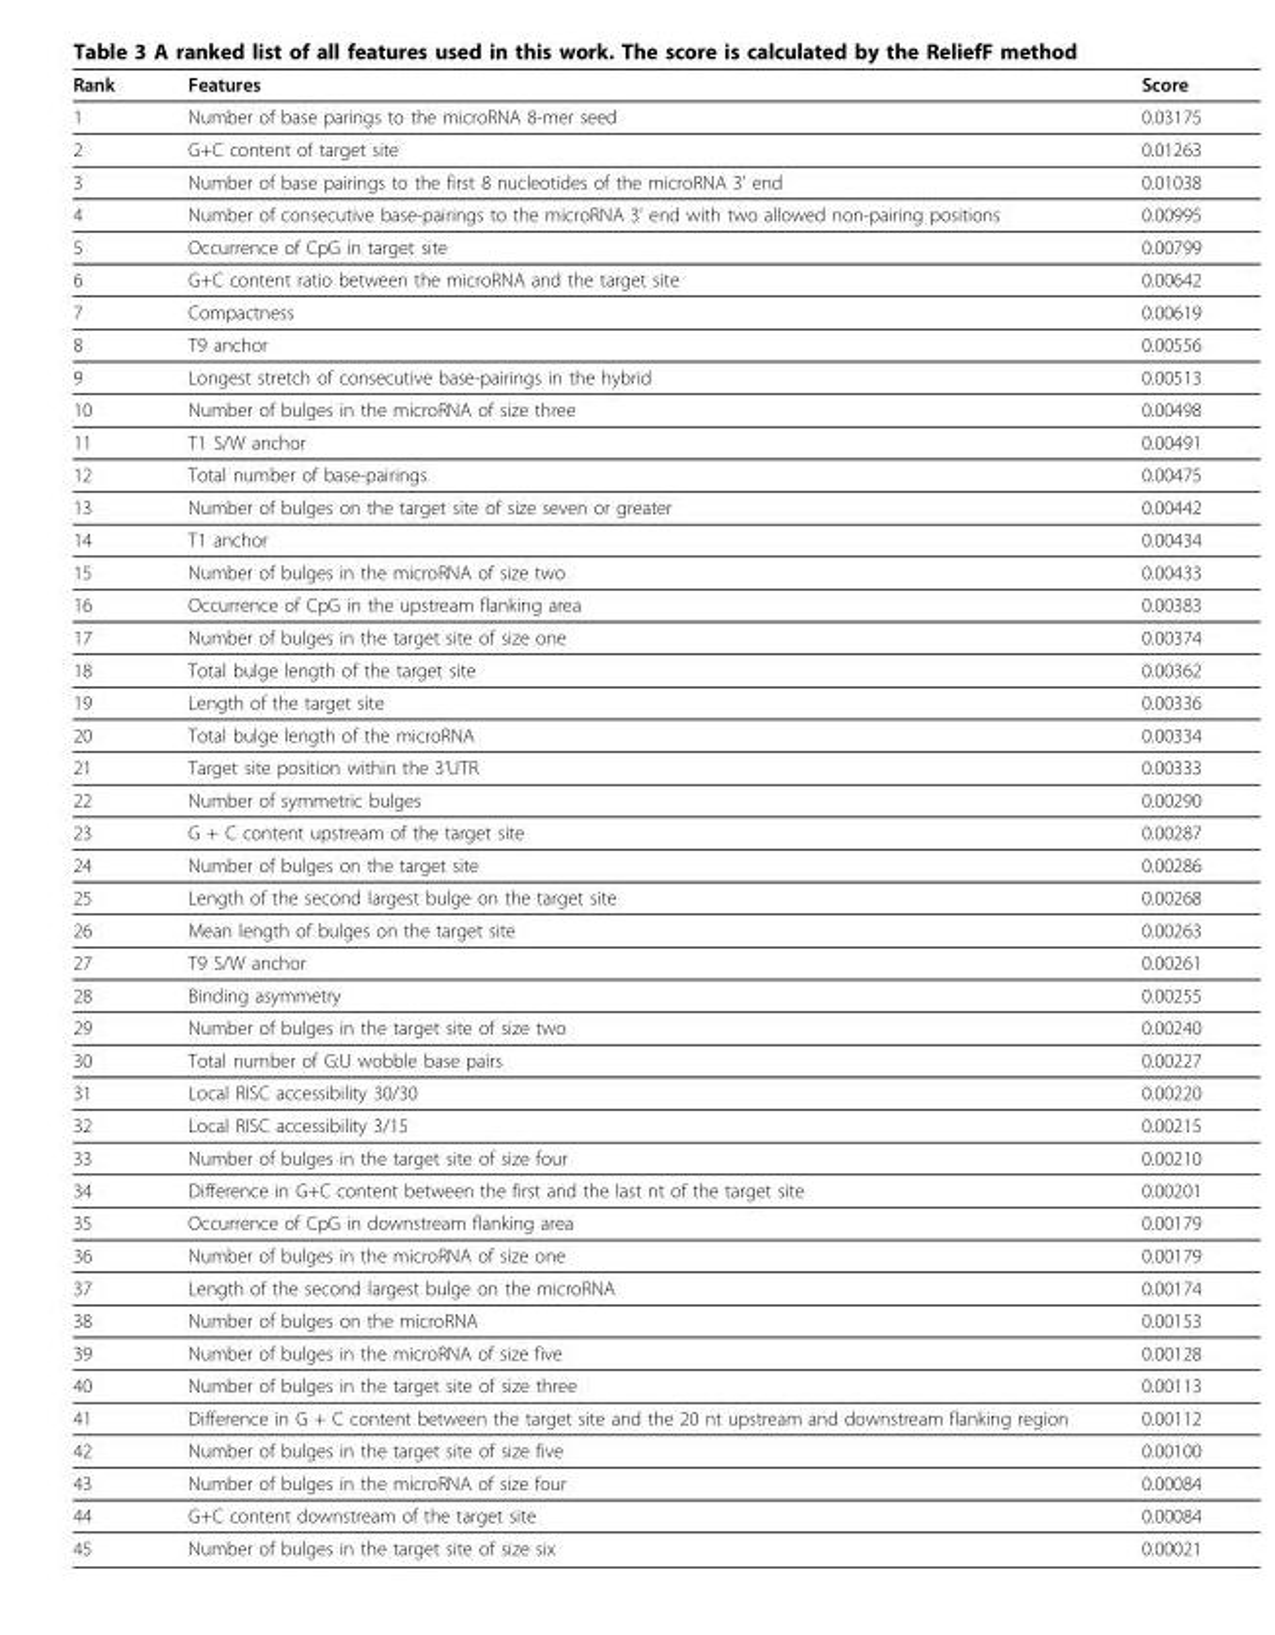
<table><thead><tr><td>Rank</td><td>Features</td><td>Score</td></tr></thead><tbody><tr><td>1</td><td>Number of base parings to the microRNA 8-mer seed</td><td>0.03175</td></tr><tr><td>2</td><td>G+C content of target site</td><td>0.01263</td></tr><tr><td>3</td><td>Number of base pairings to the first 8 nucleotides of the microRNA 3’ end</td><td>0.01038</td></tr><tr><td>4</td><td>Number of consecutive base-pairings to the microRNA 3’ end with two allowed non-pairing positions</td><td>0.00995</td></tr><tr><td>5</td><td>Occurrence of CpG in target site</td><td>0.00799</td></tr><tr><td>6</td><td>G+C content ratio between the microRNA and the target site</td><td>0.00642</td></tr><tr><td>7</td><td>Compactness</td><td>0.00619</td></tr><tr><td>8</td><td>T9 anchor</td><td>0.00556</td></tr><tr><td>9</td><td>Longest stretch of consecutive base-pairings in the hybrid</td><td>0.00513</td></tr><tr><td>10</td><td>Number of bulges in the microRNA of size three</td><td>0.00498</td></tr><tr><td>11</td><td>T1 S/W anchor</td><td>0.00491</td></tr><tr><td>12</td><td>Total number of base-pairings</td><td>0.00475</td></tr><tr><td>13</td><td>Number of bulges on the target site of size seven or greater</td><td>0.00442</td></tr><tr><td>14</td><td>T1 anchor</td><td>0.00434</td></tr><tr><td>15</td><td>Number of bulges in the microRNA of size two</td><td>0.00433</td></tr><tr><td>16</td><td>Occurrence of CpG in the upstream flanking area</td><td>0.00383</td></tr><tr><td>17</td><td>Number of bulges in the target site of size one</td><td>0.00374</td></tr><tr><td>18</td><td>Total bulge length of the target site</td><td>0.00362</td></tr><tr><td>19</td><td>Length of the target site</td><td>0.00336</td></tr><tr><td>20</td><td>Total bulge length of the microRNA</td><td>0.00334</td></tr><tr><td>21</td><td>Target site position within the 3’UTR</td><td>0.00333</td></tr><tr><td>22</td><td>Number of symmetric bulges</td><td>0.00290</td></tr><tr><td>23</td><td>G + C content upstream of the target site</td><td>0.00287</td></tr><tr><td>24</td><td>Number of bulges on the target site</td><td>0.00286</td></tr><tr><td>25</td><td>Length of the second largest bulge on the target site</td><td>0.00268</td></tr><tr><td>26</td><td>Mean length of bulges on the target site</td><td>0.00263</td></tr><tr><td>27</td><td>T9 S/W anchor</td><td>0.00261</td></tr><tr><td>28</td><td>Binding asymmetry</td><td>0.00255</td></tr><tr><td>29</td><td>Number of bulges in the target site of size two</td><td>0.00240</td></tr><tr><td>30</td><td>Total number of G:U wobble base pairs</td><td>0.00227</td></tr><tr><td>31</td><td>Local RISC accessibility 30/30</td><td>0.00220</td></tr><tr><td>32</td><td>Local RISC accessibility 3/15</td><td>0.00215</td></tr><tr><td>33</td><td>Number of bulges in the target site of size four</td><td>0.00210</td></tr><tr><td>34</td><td>Difference in G+C content between the first and the last nt of the target site</td><td>0.00201</td></tr><tr><td>35</td><td>Occurrence of CpG in downstream flanking area</td><td>0.00179</td></tr><tr><td>36</td><td>Number of bulges in the microRNA of size one</td><td>0.00179</td></tr><tr><td>37</td><td>Length of the second largest bulge on the microRNA</td><td>0.00174</td></tr><tr><td>38</td><td>Number of bulges on the microRNA</td><td>0.00153</td></tr><tr><td>39</td><td>Number of bulges in the microRNA of size five</td><td>0.00128</td></tr><tr><td>40</td><td>Number of bulges in the target site of size three</td><td>0.00113</td></tr><tr><td>41</td><td>Difference in G + C content between the target site and the 20 nt upstream and downstream flanking region</td><td>0.00112</td></tr><tr><td>42</td><td>Number of bulges in the target site of size five</td><td>0.00100</td></tr><tr><td>43</td><td>Number of bulges in the microRNA of size four</td><td>0.00084</td></tr><tr><td>44</td><td>G+C content downstream of the target site</td><td>0.00084</td></tr><tr><td>45</td><td>Number of bulges in the target site of size six</td><td>0.00021</td></tr></tbody></table>